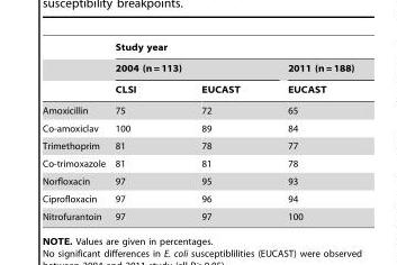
<table><thead><tr><td rowspan="3"></td><td colspan="3">Study year</td></tr><tr><td colspan="2">2004 (n = 113)</td><td rowspan="2">2011 (n = 188) EUCAST</td></tr><tr><td>CLSI</td><td>EUCAST</td></tr></thead><tbody><tr><td>Amoxicillin</td><td>75</td><td>72</td><td>65</td></tr><tr><td>Co-amoxiclav</td><td>100</td><td>89</td><td>84</td></tr><tr><td>Trimethoprim</td><td>81</td><td>78</td><td>77</td></tr><tr><td>Co-trimoxazole</td><td>81</td><td>81</td><td>78</td></tr><tr><td>Norfloxacin</td><td>97</td><td>95</td><td>93</td></tr><tr><td>Ciprofloxacin</td><td>97</td><td>96</td><td>94</td></tr><tr><td>Nitrofurantoin</td><td>97</td><td>97</td><td>100</td></tr></tbody></table>